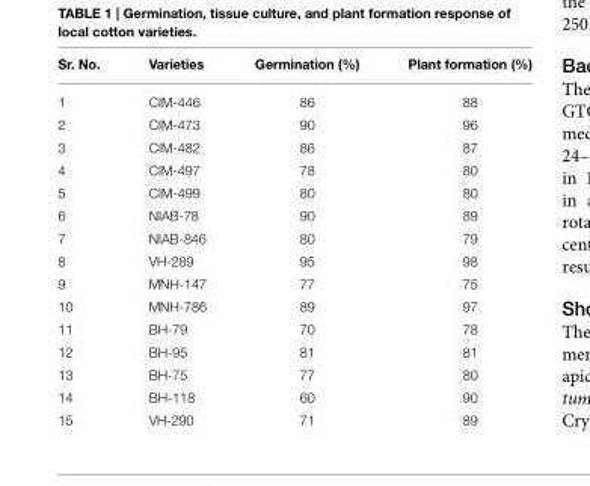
<table><thead><tr><td>Sr. No.</td><td>Varieties</td><td>Germination (%)</td><td>Plant formation (%)</td></tr></thead><tbody><tr><td>1</td><td>CIM-446</td><td>86</td><td>88</td></tr><tr><td>2</td><td>CIM-473</td><td>90</td><td>96</td></tr><tr><td>3</td><td>CIM-482</td><td>86</td><td>87</td></tr><tr><td>4</td><td>CIM-497</td><td>78</td><td>80</td></tr><tr><td>5</td><td>CIM-499</td><td>80</td><td>80</td></tr><tr><td>6</td><td>NIAB-78</td><td>90</td><td>89</td></tr><tr><td>7</td><td>NIAB-846</td><td>80</td><td>79</td></tr><tr><td>8</td><td>VH-289</td><td>95</td><td>98</td></tr><tr><td>9</td><td>MNH-147</td><td>77</td><td>75</td></tr><tr><td>10</td><td>MNH-786</td><td>89</td><td>97</td></tr><tr><td>11</td><td>BH-79</td><td>70</td><td>78</td></tr><tr><td>12</td><td>BH-95</td><td>81</td><td>81</td></tr><tr><td>13</td><td>BH-75</td><td>77</td><td>80</td></tr><tr><td>14</td><td>BH-118</td><td>60</td><td>90</td></tr><tr><td>15</td><td>VH-290</td><td>71</td><td>89</td></tr></tbody></table>